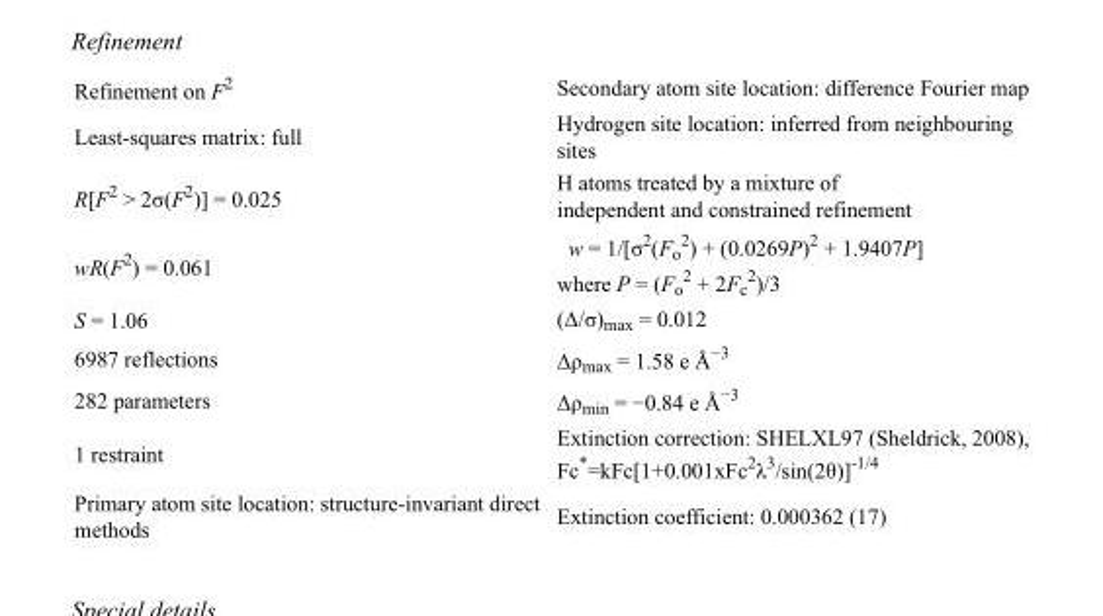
<table><tbody><tr><td>Refinement on F<sup>2</sup></td><td>Secondary atom site location: difference Fourier map</td></tr><tr><td>Least-squares matrix: full</td><td>Hydrogen site location: inferred from neighbouring sites</td></tr><tr><td>R[F<sup>2</sup> &gt; 2σ(F<sup>2</sup>)] = 0.025</td><td>H atoms treated by a mixture of independent and constrained refinement</td></tr><tr><td>wR(F<sup>2</sup>) = 0.061</td><td>w = 1/[σ<sup>2</sup>(F<sub>o</sub> <sup>2</sup>) + (0.0269P)<sup>2</sup> + 1.9407P] where P = (F<sub>o</sub> <sup>2</sup> + 2F<sub>c</sub> <sup>2</sup>)/3</td></tr><tr><td>S = 1.06</td><td>(Δ/σ)<sub>max</sub> = 0.012</td></tr><tr><td>6987 reflections</td><td>Δρ<sub>max</sub> = 1.58 e Å<sup>−3</sup></td></tr><tr><td>282 parameters</td><td>Δρ<sub>min</sub> = −0.84 e Å<sup>−3</sup></td></tr><tr><td>1 restraint</td><td>Extinction correction: SHELXL97 (Sheldrick, 2008), Fc*=kFc[1+0.001xFc<sup>2</sup>λ<sup>3</sup>/sin(2θ)]<sup>-1/4</sup></td></tr><tr><td>Primary atom site location: structure-invariant direct methods</td><td>Extinction coefficient: 0.000362 (17)</td></tr></tbody></table>